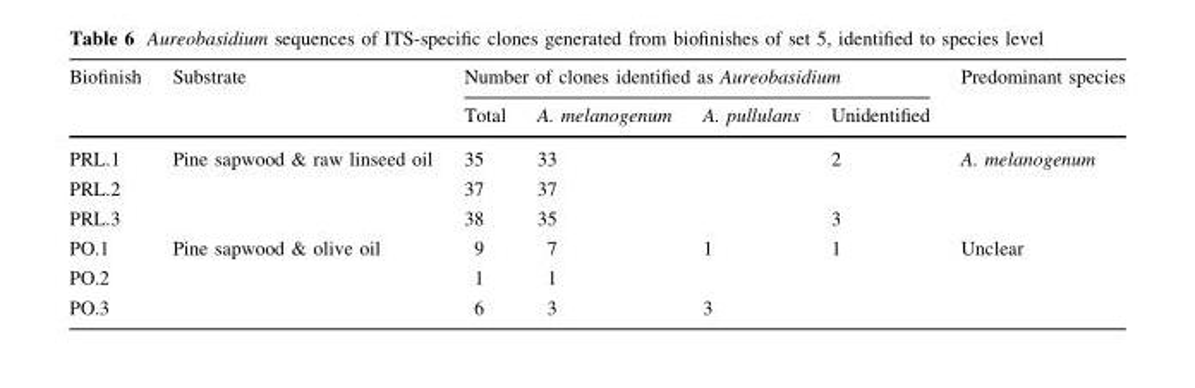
<table><thead><tr><td rowspan="2">Biofinish</td><td rowspan="2">Substrate</td><td colspan="4">Number of clones identified as Aureobasidium</td><td rowspan="2">Predominant species</td></tr><tr><td>Total</td><td>A. melanogenum</td><td>A. pullulans</td><td>Unidentified</td></tr></thead><tbody><tr><td>PRL.1</td><td rowspan="3">Pine sapwood &amp; raw linseed oil</td><td>35</td><td>33</td><td></td><td>2</td><td rowspan="3">A. melanogenum</td></tr><tr><td>PRL.2</td><td>37</td><td>37</td><td></td><td></td></tr><tr><td>PRL.3</td><td>38</td><td>35</td><td></td><td>3</td></tr><tr><td>PO.1</td><td rowspan="3">Pine sapwood &amp; olive oil</td><td>9</td><td>7</td><td>1</td><td>1</td><td rowspan="3">Unclear</td></tr><tr><td>PO.2</td><td>1</td><td>1</td><td></td><td></td></tr><tr><td>PO.3</td><td>6</td><td>3</td><td>3</td><td></td></tr></tbody></table>